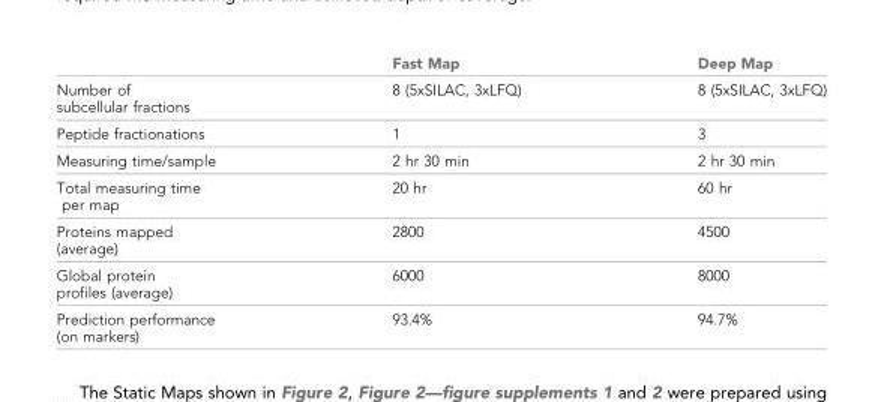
<table><thead><tr><td></td><td>Fast Map</td><td>Deep Map</td></tr></thead><tbody><tr><td>Number of subcellular fractions</td><td>8 (5xSILAC, 3xLFQ)</td><td>8 (5xSILAC, 3xLFQ)</td></tr><tr><td>Peptide fractionations</td><td>1</td><td>3</td></tr><tr><td>Measuring time/sample</td><td>2 hr 30 min</td><td>2 hr 30 min</td></tr><tr><td>Total measuring time per map</td><td>20 hr</td><td>60 hr</td></tr><tr><td>Proteins mapped (average)</td><td>2800</td><td>4500</td></tr><tr><td>Global protein profiles (average)</td><td>6000</td><td>8000</td></tr><tr><td>Prediction performance (on markers)</td><td>93.4%</td><td>94.7%</td></tr></tbody></table>